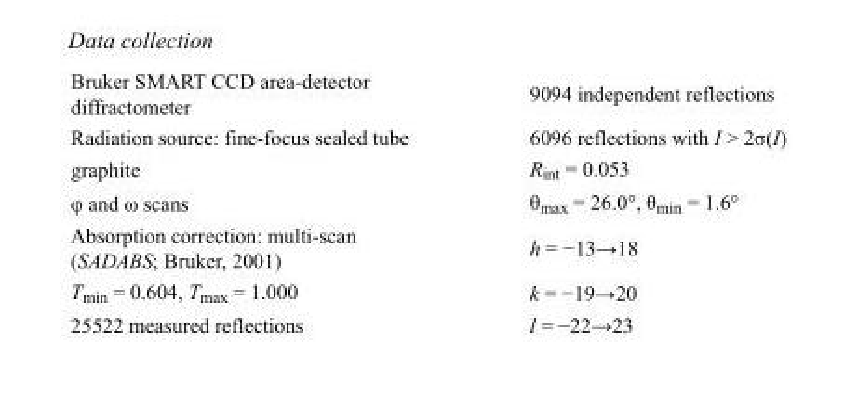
<table><tbody><tr><td>Bruker SMART CCD area-detector diffractometer</td><td>9094 independent reflections</td></tr><tr><td>Radiation source: fine-focus sealed tube</td><td>6096 reflections with I &gt; 2σ(I)</td></tr><tr><td>graphite</td><td>R<sub>int</sub> = 0.053</td></tr><tr><td>φ and ω scans</td><td>θ<sub>max</sub> = 26.0°, θ<sub>min</sub> = 1.6°</td></tr><tr><td>Absorption correction: multi-scan (SADABS; Bruker, 2001)</td><td>h = −13→18</td></tr><tr><td>T<sub>min</sub> = 0.604, T<sub>max</sub> = 1.000</td><td>k = −19→20</td></tr><tr><td>25522 measured reflections</td><td>l = −22→23</td></tr></tbody></table>